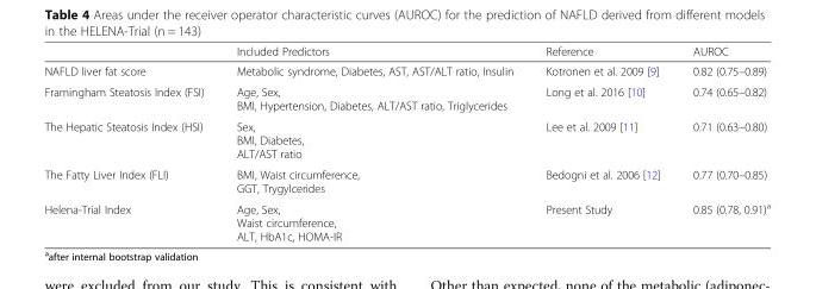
<table><thead><tr><td></td><td>Included Predictors</td><td>Reference</td><td>AUROC</td></tr></thead><tbody><tr><td>NAFLD liver fat score</td><td>Metabolic syndrome, Diabetes, AST, AST/ALT ratio, Insulin</td><td>Kotronen et al. 2009 [9]</td><td>0.82 (0.75–0.89)</td></tr><tr><td>Framingham Steatosis Index (FSI)</td><td>Age, Sex, BMI, Hypertension, Diabetes, ALT/AST ratio, Triglycerides</td><td>Long et al. 2016 [10]</td><td>0.74 (0.65–0.82)</td></tr><tr><td>The Hepatic Steatosis Index (HSI)</td><td>Sex, BMI, Diabetes, ALT/AST ratio</td><td>Lee et al. 2009 [11]</td><td>0.71 (0.63–0.80)</td></tr><tr><td>The Fatty Liver Index (FLI)</td><td>BMI, Waist circumference, GGT, Trygylcerides</td><td>Bedogni et al. 2006 [12]</td><td>0.77 (0.70–0.85)</td></tr><tr><td>Helena-Trial Index</td><td>Age, Sex, Waist circumference, ALT, HbA1c, HOMA-IR</td><td>Present Study</td><td>0.85 (0.78, 0.91)<sup>a</sup></td></tr></tbody></table>